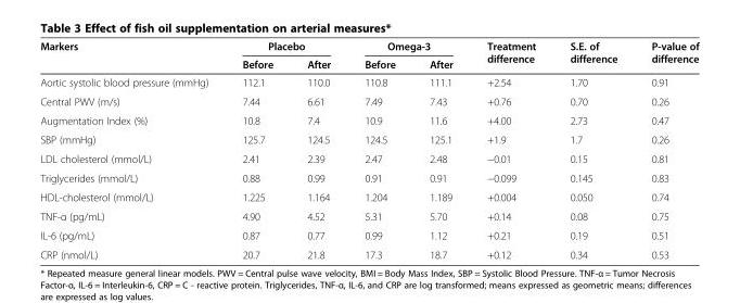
<table><thead><tr><td rowspan="2">Markers</td><td colspan="2">Placebo</td><td colspan="2">Omega-3</td><td rowspan="2">Treatment difference</td><td rowspan="2">S.E. of difference</td><td rowspan="2">P-value of difference</td></tr><tr><td>Before</td><td>After</td><td>Before</td><td>After</td></tr></thead><tbody><tr><td>Aortic systolic blood pressure (mmHg)</td><td>112.1</td><td>110.0</td><td>110.8</td><td>111.1</td><td>+2.54</td><td>1.70</td><td>0.91</td></tr><tr><td>Central PWV (m/s)</td><td>7.44</td><td>6.61</td><td>7.49</td><td>7.43</td><td>+0.76</td><td>0.70</td><td>0.26</td></tr><tr><td>Augmentation Index (%)</td><td>10.8</td><td>7.4</td><td>10.9</td><td>11.6</td><td>+4.00</td><td>2.73</td><td>0.47</td></tr><tr><td>SBP (mmHg)</td><td>125.7</td><td>124.5</td><td>124.5</td><td>125.1</td><td>+1.9</td><td>1.7</td><td>0.26</td></tr><tr><td>LDL cholesterol (mmol/L)</td><td>2.41</td><td>2.39</td><td>2.47</td><td>2.48</td><td>−0.01</td><td>0.15</td><td>0.81</td></tr><tr><td>Triglycerides (mmol/L)</td><td>0.88</td><td>0.99</td><td>0.91</td><td>0.91</td><td>−0.099</td><td>0.145</td><td>0.83</td></tr><tr><td>HDL-cholesterol (mmol/L)</td><td>1.225</td><td>1.164</td><td>1.204</td><td>1.189</td><td>+0.004</td><td>0.050</td><td>0.74</td></tr><tr><td>TNF-α (pg/mL)</td><td>4.90</td><td>4.52</td><td>5.31</td><td>5.70</td><td>+0.14</td><td>0.08</td><td>0.75</td></tr><tr><td>IL-6 (pg/mL)</td><td>0.87</td><td>0.77</td><td>0.99</td><td>1.12</td><td>+0.21</td><td>0.19</td><td>0.51</td></tr><tr><td>CRP (nmol/L)</td><td>20.7</td><td>21.8</td><td>17.3</td><td>18.7</td><td>+0.12</td><td>0.34</td><td>0.53</td></tr></tbody></table>